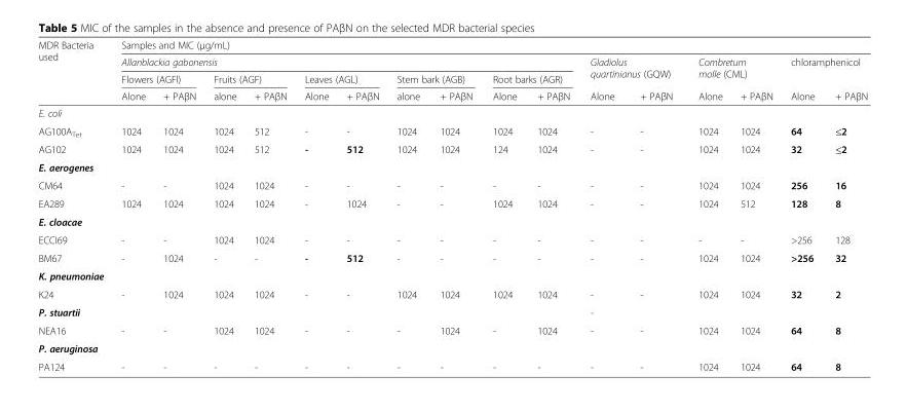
<table><thead><tr><td rowspan="4">MDR Bacteria used</td><td colspan="16">Samples and MIC (μg/mL)</td></tr><tr><td colspan="10">Allanblackia gabonensis</td><td rowspan="2" colspan="2">Gladiolus quartinianus (GQW)</td><td rowspan="2" colspan="2">Combretum molle (CML)</td><td rowspan="2" colspan="2">chloramphenicol</td></tr><tr><td colspan="2">Flowers (AGFl)</td><td colspan="2">Fruits (AGF)</td><td colspan="2">Leaves (AGL)</td><td colspan="2">Stem bark (AGB)</td><td colspan="2">Root barks (AGR)</td></tr><tr><td>Alone</td><td>+ PAβN</td><td>alone</td><td>+ PAβN</td><td>Alone</td><td>+ PAβN</td><td>alone</td><td>+ PAβN</td><td>Alone</td><td>+ PAβN</td><td>Alone</td><td>+ PAβN</td><td>Alone</td><td>+ PAβN</td><td>Alone</td><td>+ PAβN</td></tr></thead><tbody><tr><td colspan="17">E. coli</td></tr><tr><td>AG100A<sub>Tet</sub></td><td>1024</td><td>1024</td><td>1024</td><td>512</td><td>-</td><td>-</td><td>1024</td><td>1024</td><td>1024</td><td>1024</td><td>-</td><td>-</td><td>1024</td><td>1024</td><td>64</td><td>≤2</td></tr><tr><td>AG102</td><td>1024</td><td>1024</td><td>1024</td><td>512</td><td>-</td><td>512</td><td>1024</td><td>1024</td><td>124</td><td>1024</td><td>-</td><td>-</td><td>1024</td><td>1024</td><td>32</td><td>≤2</td></tr><tr><td colspan="17">E. aerogenes</td></tr><tr><td>CM64</td><td>-</td><td>-</td><td>1024</td><td>1024</td><td>-</td><td>-</td><td>-</td><td>-</td><td>-</td><td>-</td><td>-</td><td>-</td><td>1024</td><td>1024</td><td>256</td><td>16</td></tr><tr><td>EA289</td><td>1024</td><td>1024</td><td>1024</td><td>1024</td><td>-</td><td>1024</td><td>-</td><td>-</td><td>1024</td><td>1024</td><td>-</td><td>-</td><td>1024</td><td>512</td><td>128</td><td>8</td></tr><tr><td colspan="17">E. cloacae</td></tr><tr><td>ECCI69</td><td>-</td><td>-</td><td>1024</td><td>1024</td><td>-</td><td>-</td><td>-</td><td>-</td><td>-</td><td>-</td><td>-</td><td>-</td><td>-</td><td>-</td><td>&gt;256</td><td>128</td></tr><tr><td>BM67</td><td>-</td><td>1024</td><td>-</td><td>-</td><td>-</td><td>512</td><td>-</td><td>-</td><td>-</td><td>-</td><td>-</td><td>-</td><td>1024</td><td>1024</td><td>&gt;256</td><td>32</td></tr><tr><td colspan="17">K. pneumoniae</td></tr><tr><td>K24</td><td>-</td><td>1024</td><td>1024</td><td>1024</td><td>-</td><td>-</td><td>1024</td><td>1024</td><td>1024</td><td>1024</td><td>-</td><td>-</td><td>1024</td><td>1024</td><td>32</td><td>2</td></tr><tr><td>P. stuartii</td><td></td><td></td><td></td><td></td><td></td><td></td><td></td><td></td><td></td><td></td><td>-</td><td></td><td></td><td></td><td></td><td></td></tr><tr><td>NEA16</td><td>-</td><td>-</td><td>1024</td><td>1024</td><td>-</td><td>-</td><td>-</td><td>1024</td><td>-</td><td>1024</td><td>-</td><td>-</td><td>1024</td><td>1024</td><td>64</td><td>8</td></tr><tr><td colspan="17">P. aeruginosa</td></tr><tr><td>PA124</td><td>-</td><td>-</td><td>-</td><td>-</td><td>-</td><td>-</td><td>-</td><td>-</td><td>-</td><td>-</td><td>-</td><td>-</td><td>1024</td><td>1024</td><td>64</td><td>8</td></tr></tbody></table>